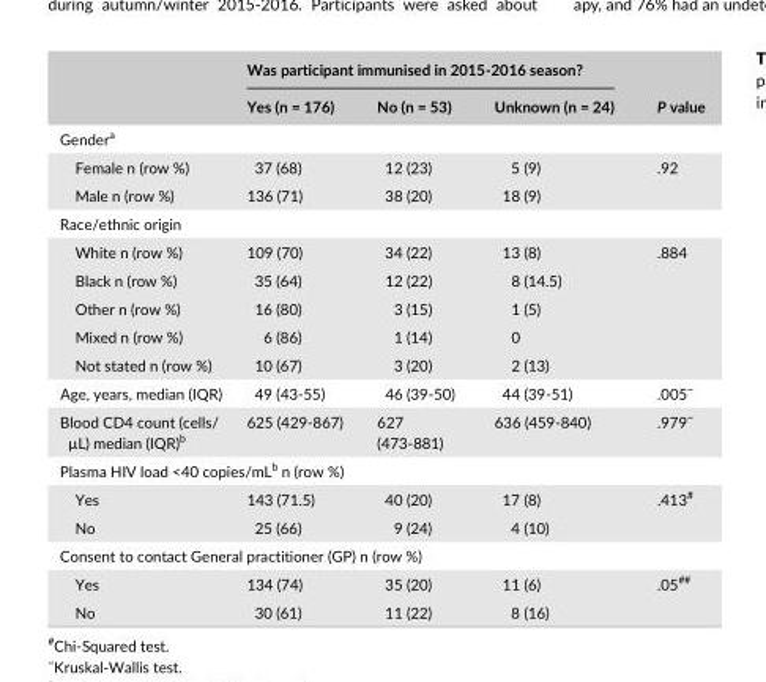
<table><thead><tr><td rowspan="2"></td><td colspan="3">Was participant immunised in 2015- 2016 season?</td><td rowspan="2">P value</td></tr><tr><td>Yes (n = 176)</td><td>No (n = 53)</td><td>Unknown (n = 24)</td></tr></thead><tbody><tr><td colspan="5">Gendera</td></tr><tr><td>Female n (row %)</td><td>37 (68)</td><td>12 (23)</td><td>5 (9)</td><td rowspan="2">.92</td></tr><tr><td>Male n (row %)</td><td>136 (71)</td><td>38 (20)</td><td>18 (9)</td></tr><tr><td colspan="5">Race/ethnic origin</td></tr><tr><td>White n (row %)</td><td>109 (70)</td><td>34 (22)</td><td>13 (8)</td><td rowspan="5">.884</td></tr><tr><td>Black n (row %)</td><td>35 (64)</td><td>12 (22)</td><td>8 (14.5)</td></tr><tr><td>Other n (row %)</td><td>16 (80)</td><td>3 (15)</td><td>1 (5)</td></tr><tr><td>Mixed n (row %)</td><td>6 (86)</td><td>1 (14)</td><td>0</td></tr><tr><td>Not stated n (row %)</td><td>10 (67)</td><td>3 (20)</td><td>2 (13)</td></tr><tr><td>Age, years, median (IQR)</td><td>49 (43- 55)</td><td>46 (39- 50)</td><td>44 (39- 51)</td><td>.005~</td></tr><tr><td>Blood CD4 count (cells/ µL) median (IQR)b</td><td>625 (429- 867)</td><td>627 (473- 881)</td><td>636 (459- 840)</td><td>.979~</td></tr><tr><td colspan="5">Plasma HIV load &lt;40 copies/mLb n (row %)</td></tr><tr><td>Yes</td><td>143 (71.5)</td><td>40 (20)</td><td>17 (8)</td><td rowspan="2">.413#</td></tr><tr><td>No</td><td>25 (66)</td><td>9 (24)</td><td>4 (10)</td></tr><tr><td colspan="5">Consent to contact General practitioner (GP) n (row %)</td></tr><tr><td>Yes</td><td>134 (74)</td><td>35 (20)</td><td>11 (6)</td><td rowspan="2">.05##</td></tr><tr><td>No</td><td>30 (61)</td><td>11 (22)</td><td>8 (16)</td></tr></tbody></table>